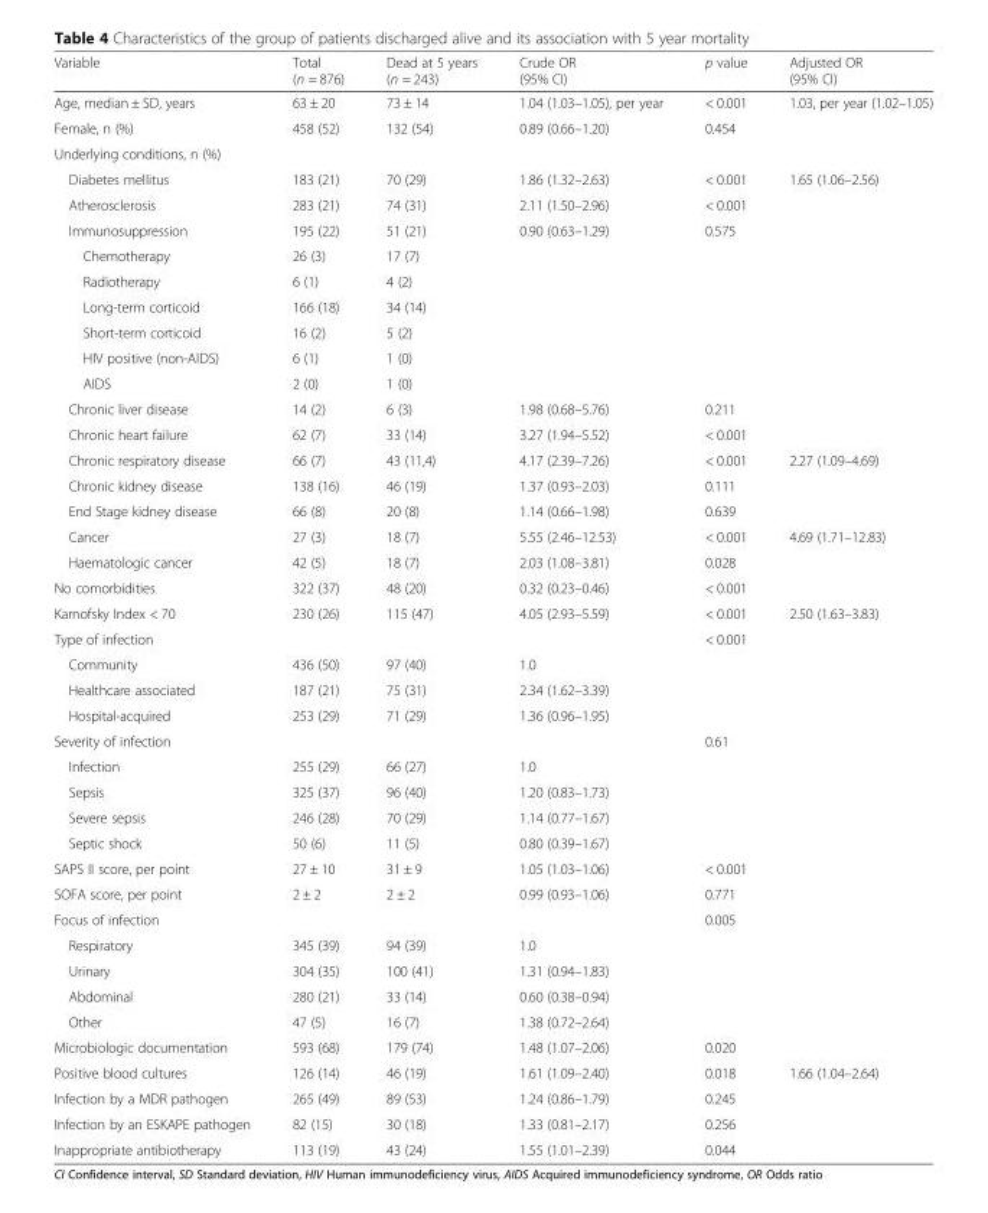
<table><thead><tr><td>Variable</td><td>Total (n = 876)</td><td>Dead at 5 years (n = 243)</td><td>Crude OR (95% CI)</td><td>p value</td><td>Adjusted OR (95% CI)</td></tr></thead><tbody><tr><td>Age, median ± SD, years</td><td>63 ± 20</td><td>73 ± 14</td><td>1.04 (1.03–1.05), per year</td><td>&lt; 0.001</td><td>1.03, per year (1.02–1.05)</td></tr><tr><td>Female, n (%)</td><td>458 (52)</td><td>132 (54)</td><td>0.89 (0.66–1.20)</td><td>0.454</td><td></td></tr><tr><td colspan="6">Underlying conditions, n (%)</td></tr><tr><td>Diabetes mellitus</td><td>183 (21)</td><td>70 (29)</td><td>1.86 (1.32–2.63)</td><td>&lt; 0.001</td><td>1.65 (1.06–2.56)</td></tr><tr><td>Atherosclerosis</td><td>283 (21)</td><td>74 (31)</td><td>2.11 (1.50–2.96)</td><td>&lt; 0.001</td><td></td></tr><tr><td>Immunosuppression</td><td>195 (22)</td><td>51 (21)</td><td>0.90 (0.63–1.29)</td><td>0.575</td><td></td></tr><tr><td>Chemotherapy</td><td>26 (3)</td><td>17 (7)</td><td></td><td></td><td></td></tr><tr><td>Radiotherapy</td><td>6 (1)</td><td>4 (2)</td><td></td><td></td><td></td></tr><tr><td>Long-term corticoid</td><td>166 (18)</td><td>34 (14)</td><td></td><td></td><td></td></tr><tr><td>Short-term corticoid</td><td>16 (2)</td><td>5 (2)</td><td></td><td></td><td></td></tr><tr><td>HIV positive (non-AIDS)</td><td>6 (1)</td><td>1 (0)</td><td></td><td></td><td></td></tr><tr><td>AIDS</td><td>2 (0)</td><td>1 (0)</td><td></td><td></td><td></td></tr><tr><td>Chronic liver disease</td><td>14 (2)</td><td>6 (3)</td><td>1.98 (0.68–5.76)</td><td>0.211</td><td></td></tr><tr><td>Chronic heart failure</td><td>62 (7)</td><td>33 (14)</td><td>3.27 (1.94–5.52)</td><td>&lt; 0.001</td><td></td></tr><tr><td>Chronic respiratory disease</td><td>66 (7)</td><td>43 (11,4)</td><td>4.17 (2.39–7.26)</td><td>&lt; 0.001</td><td>2.27 (1.09–4.69)</td></tr><tr><td>Chronic kidney disease</td><td>138 (16)</td><td>46 (19)</td><td>1.37 (0.93–2.03)</td><td>0.111</td><td></td></tr><tr><td>End Stage kidney disease</td><td>66 (8)</td><td>20 (8)</td><td>1.14 (0.66–1.98)</td><td>0.639</td><td></td></tr><tr><td>Cancer</td><td>27 (3)</td><td>18 (7)</td><td>5.55 (2.46–12.53)</td><td>&lt; 0.001</td><td>4.69 (1.71–12.83)</td></tr><tr><td>Haematologic cancer</td><td>42 (5)</td><td>18 (7)</td><td>2.03 (1.08–3.81)</td><td>0.028</td><td></td></tr><tr><td>No comorbidities</td><td>322 (37)</td><td>48 (20)</td><td>0.32 (0.23–0.46)</td><td>&lt; 0.001</td><td></td></tr><tr><td>Karnofsky Index &lt; 70</td><td>230 (26)</td><td>115 (47)</td><td>4.05 (2.93–5.59)</td><td>&lt; 0.001</td><td>2.50 (1.63–3.83)</td></tr><tr><td>Type of infection</td><td></td><td></td><td></td><td>&lt; 0.001</td><td></td></tr><tr><td>Community</td><td>436 (50)</td><td>97 (40)</td><td>1.0</td><td></td><td></td></tr><tr><td>Healthcare associated</td><td>187 (21)</td><td>75 (31)</td><td>2.34 (1.62–3.39)</td><td></td><td></td></tr><tr><td>Hospital-acquired</td><td>253 (29)</td><td>71 (29)</td><td>1.36 (0.96–1.95)</td><td></td><td></td></tr><tr><td>Severity of infection</td><td></td><td></td><td></td><td>0.61</td><td></td></tr><tr><td>Infection</td><td>255 (29)</td><td>66 (27)</td><td>1.0</td><td></td><td></td></tr><tr><td>Sepsis</td><td>325 (37)</td><td>96 (40)</td><td>1.20 (0.83–1.73)</td><td></td><td></td></tr><tr><td>Severe sepsis</td><td>246 (28)</td><td>70 (29)</td><td>1.14 (0.77–1.67)</td><td></td><td></td></tr><tr><td>Septic shock</td><td>50 (6)</td><td>11 (5)</td><td>0.80 (0.39–1.67)</td><td></td><td></td></tr><tr><td>SAPS II score, per point</td><td>27 ± 10</td><td>31 ± 9</td><td>1.05 (1.03–1.06)</td><td>&lt; 0.001</td><td></td></tr><tr><td>SOFA score, per point</td><td>2 ± 2</td><td>2 ± 2</td><td>0.99 (0.93–1.06)</td><td>0.771</td><td></td></tr><tr><td>Focus of infection</td><td></td><td></td><td></td><td>0.005</td><td></td></tr><tr><td>Respiratory</td><td>345 (39)</td><td>94 (39)</td><td>1.0</td><td></td><td></td></tr><tr><td>Urinary</td><td>304 (35)</td><td>100 (41)</td><td>1.31 (0.94–1.83)</td><td></td><td></td></tr><tr><td>Abdominal</td><td>280 (21)</td><td>33 (14)</td><td>0.60 (0.38–0.94)</td><td></td><td></td></tr><tr><td>Other</td><td>47 (5)</td><td>16 (7)</td><td>1.38 (0.72–2.64)</td><td></td><td></td></tr><tr><td>Microbiologic documentation</td><td>593 (68)</td><td>179 (74)</td><td>1.48 (1.07–2.06)</td><td>0.020</td><td></td></tr><tr><td>Positive blood cultures</td><td>126 (14)</td><td>46 (19)</td><td>1.61 (1.09–2.40)</td><td>0.018</td><td>1.66 (1.04–2.64)</td></tr><tr><td>Infection by a MDR pathogen</td><td>265 (49)</td><td>89 (53)</td><td>1.24 (0.86–1.79)</td><td>0.245</td><td></td></tr><tr><td>Infection by an ESKAPE pathogen</td><td>82 (15)</td><td>30 (18)</td><td>1.33 (0.81–2.17)</td><td>0.256</td><td></td></tr><tr><td>Inappropriate antibiotherapy</td><td>113 (19)</td><td>43 (24)</td><td>1.55 (1.01–2.39)</td><td>0.044</td><td></td></tr></tbody></table>